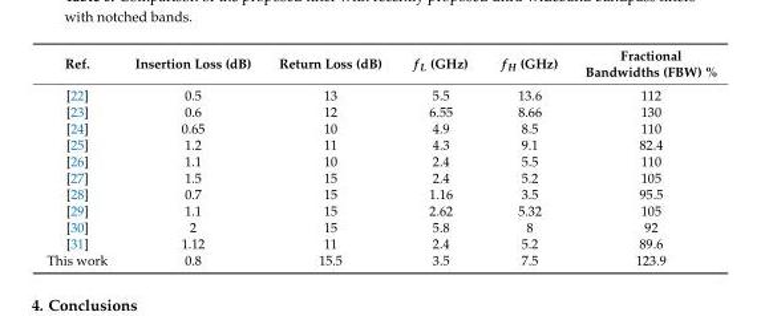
<table><thead><tr><td>Ref.</td><td>Insertion Loss (dB)</td><td>Return Loss (dB)</td><td>f<sub>L</sub> (GHz)</td><td>f<sub>H</sub> (GHz)</td><td>Fractional Bandwidths (FBW) %</td></tr></thead><tbody><tr><td>[22]</td><td>0.5</td><td>13</td><td>5.5</td><td>13.6</td><td>112</td></tr><tr><td>[23]</td><td>0.6</td><td>12</td><td>6.55</td><td>8.66</td><td>130</td></tr><tr><td>[24]</td><td>0.65</td><td>10</td><td>4.9</td><td>8.5</td><td>110</td></tr><tr><td>[25]</td><td>1.2</td><td>11</td><td>4.3</td><td>9.1</td><td>82.4</td></tr><tr><td>[26]</td><td>1.1</td><td>10</td><td>2.4</td><td>5.5</td><td>110</td></tr><tr><td>[27]</td><td>1.5</td><td>15</td><td>2.4</td><td>5.2</td><td>105</td></tr><tr><td>[28]</td><td>0.7</td><td>15</td><td>1.16</td><td>3.5</td><td>95.5</td></tr><tr><td>[29]</td><td>1.1</td><td>15</td><td>2.62</td><td>5.32</td><td>105</td></tr><tr><td>[30]</td><td>2</td><td>15</td><td>5.8</td><td>8</td><td>92</td></tr><tr><td>[31]</td><td>1.12</td><td>11</td><td>2.4</td><td>5.2</td><td>89.6</td></tr><tr><td>This work</td><td>0.8</td><td>15.5</td><td>3.5</td><td>7.5</td><td>123.9</td></tr></tbody></table>